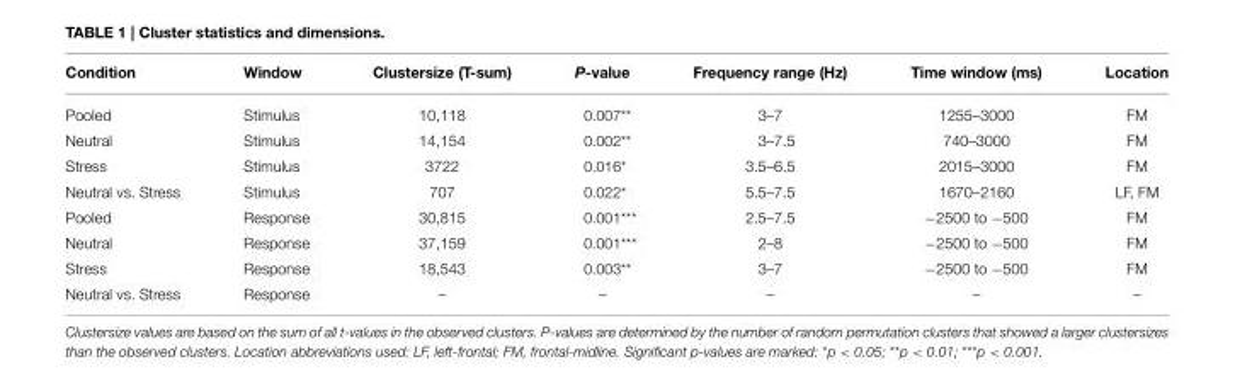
<table><thead><tr><td>Condition</td><td>Window</td><td>Clustersize (T-sum)</td><td>P-value</td><td>Frequency range (Hz)</td><td>Time window (ms)</td><td>Location</td></tr></thead><tbody><tr><td>Pooled</td><td>Stimulus</td><td>10,118</td><td>0.007**</td><td>3–7</td><td>1255–3000</td><td>FM</td></tr><tr><td>Neutral</td><td>Stimulus</td><td>14,154</td><td>0.002**</td><td>3–7.5</td><td>740–3000</td><td>FM</td></tr><tr><td>Stress</td><td>Stimulus</td><td>3722</td><td>0.016*</td><td>3.5–6.5</td><td>2015–3000</td><td>FM</td></tr><tr><td>Neutral vs. Stress</td><td>Stimulus</td><td>707</td><td>0.022*</td><td>5.5–7.5</td><td>1670–2160</td><td>LF, FM</td></tr><tr><td>Pooled</td><td>Response</td><td>30,815</td><td>0.001***</td><td>2.5–7.5</td><td>−2500 to −500</td><td>FM</td></tr><tr><td>Neutral</td><td>Response</td><td>37,159</td><td>0.001***</td><td>2–8</td><td>−2500 to −500</td><td>FM</td></tr><tr><td>Stress</td><td>Response</td><td>18,543</td><td>0.003**</td><td>3–7</td><td>−2500 to −500</td><td>FM</td></tr><tr><td>Neutral vs. Stress</td><td>Response</td><td>–</td><td>–</td><td>–</td><td>–</td><td>–</td></tr></tbody></table>